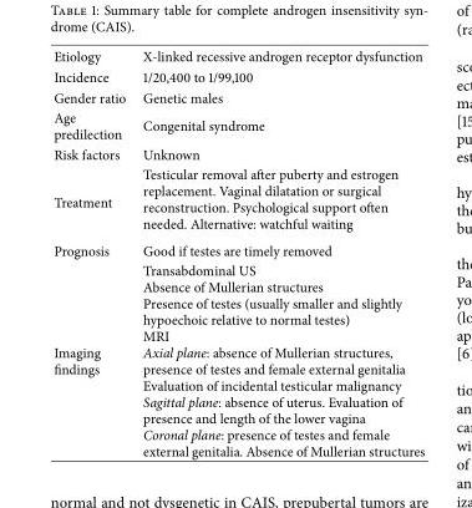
<table><tbody><tr><td>Etiology</td><td>X-linked recessive androgen receptor dysfunction</td></tr><tr><td>Incidence</td><td>1/20,400 to 1/99,100</td></tr><tr><td>Gender ratio</td><td>Genetic males</td></tr><tr><td>Age predilection</td><td>Congenital syndrome</td></tr><tr><td>Risk factors</td><td>Unknown</td></tr><tr><td>Treatment</td><td>Testicular removal after puberty and estrogen replacement. Vaginal dilatation or surgical reconstruction. Psychological support often needed. Alternative: watchful waiting</td></tr><tr><td>Prognosis</td><td>Good if testes are timely removed</td></tr><tr><td>Imaging findings</td><td>Transabdominal US Absence of Mullerian structures Presence of testes (usually smaller and slightly hypoechoic relative to normal testes) MRI Axial plane: absence of Mullerian structures, presence of testes and female external genitalia Evaluation of incidental testicular malignancy Sagittal plane: absence of uterus. Evaluation of presence and length of the lower vagina Coronal plane: presence of testes and female external genitalia. Absence of Mullerian structures</td></tr></tbody></table>